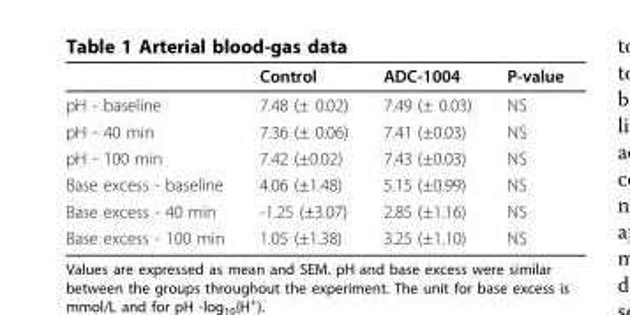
<table><thead><tr><td></td><td>Control</td><td>ADC-1004</td><td>P-value</td></tr></thead><tbody><tr><td>pH - baseline</td><td>7.48 (± 0.02)</td><td>7.49 (± 0.03)</td><td>NS</td></tr><tr><td>pH - 40 min</td><td>7.36 (± 0.06)</td><td>7.41 (±0.03)</td><td>NS</td></tr><tr><td>pH - 100 min</td><td>7.42 (±0.02)</td><td>7.43 (±0.03)</td><td>NS</td></tr><tr><td>Base excess - baseline</td><td>4.06 (±1.48)</td><td>5.15 (±0.99)</td><td>NS</td></tr><tr><td>Base excess - 40 min</td><td>-1.25 (±3.07)</td><td>2.85 (±1.16)</td><td>NS</td></tr><tr><td>Base excess - 100 min</td><td>1.05 (±1.38)</td><td>3.25 (±1.10)</td><td>NS</td></tr></tbody></table>